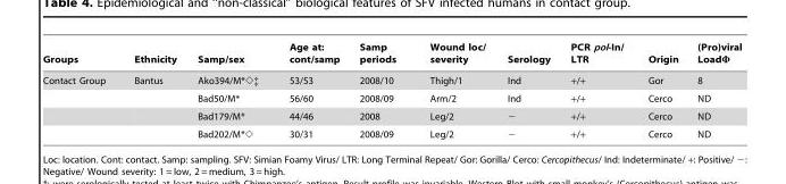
<table><thead><tr><td>Groups</td><td>Ethnicity</td><td>Samp/sex</td><td>Age at: cont/samp</td><td>Samp periods</td><td>Wound loc/ severity</td><td>Serology</td><td>PCR pol-In/ LTR</td><td>Origin</td><td>(Pro)viral LoadΦ</td></tr></thead><tbody><tr><td rowspan="4">Contact Group</td><td>Bantus</td><td>Ako394/M*◊‡</td><td>53/53</td><td>2008/10</td><td>Thigh/1</td><td>Ind</td><td>+/+</td><td>Gor</td><td>8</td></tr><tr><td></td><td>Bad50/M*</td><td>56/60</td><td>2008/09</td><td>Arm/2</td><td>Ind</td><td>+/+</td><td>Cerco</td><td>ND</td></tr><tr><td></td><td>Bad179/M*</td><td>44/46</td><td>2008</td><td>Leg/2</td><td>−</td><td>+/+</td><td>Cerco</td><td>ND</td></tr><tr><td></td><td>Bad202/M*◊</td><td>30/31</td><td>2008/09</td><td>Leg/2</td><td>−</td><td>+/+</td><td>Cerco</td><td>ND</td></tr></tbody></table>